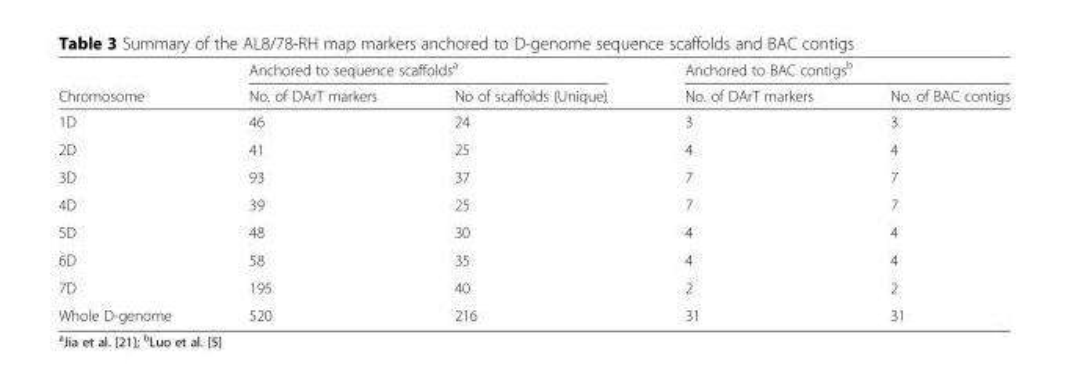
<table><thead><tr><td rowspan="2">Chromosome</td><td colspan="2">Anchored to sequence scaffolds<sup>a</sup></td><td colspan="2">Anchored to BAC contigs<sup>b</sup></td></tr><tr><td>No. of DArT markers</td><td>No of scaffolds (Unique)</td><td>No. of DArT markers</td><td>No. of BAC contigs</td></tr></thead><tbody><tr><td>1D</td><td>46</td><td>24</td><td>3</td><td>3</td></tr><tr><td>2D</td><td>41</td><td>25</td><td>4</td><td>4</td></tr><tr><td>3D</td><td>93</td><td>37</td><td>7</td><td>7</td></tr><tr><td>4D</td><td>39</td><td>25</td><td>7</td><td>7</td></tr><tr><td>5D</td><td>48</td><td>30</td><td>4</td><td>4</td></tr><tr><td>6D</td><td>58</td><td>35</td><td>4</td><td>4</td></tr><tr><td>7D</td><td>195</td><td>40</td><td>2</td><td>2</td></tr><tr><td>Whole D-genome</td><td>520</td><td>216</td><td>31</td><td>31</td></tr></tbody></table>